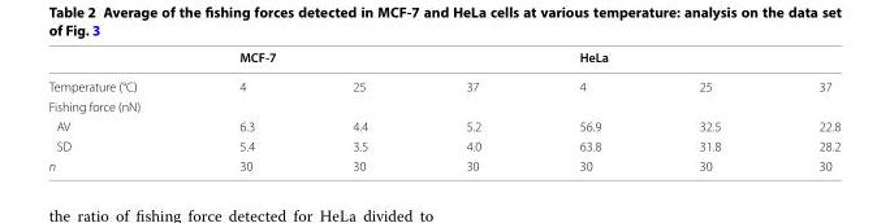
<table><thead><tr><td rowspan="2">Temperature (°C)</td><td colspan="3">MCF-7</td><td colspan="3">HeLa</td></tr><tr><td>4</td><td>25</td><td>37</td><td>4</td><td>25</td><td>37</td></tr></thead><tbody><tr><td colspan="7">Fishing force (nN)</td></tr><tr><td>AV</td><td>6.3</td><td>4.4</td><td>5.2</td><td>56.9</td><td>32.5</td><td>22.8</td></tr><tr><td>SD</td><td>5.4</td><td>3.5</td><td>4.0</td><td>63.8</td><td>31.8</td><td>28.2</td></tr><tr><td>n</td><td>30</td><td>30</td><td>30</td><td>30</td><td>30</td><td>30</td></tr></tbody></table>